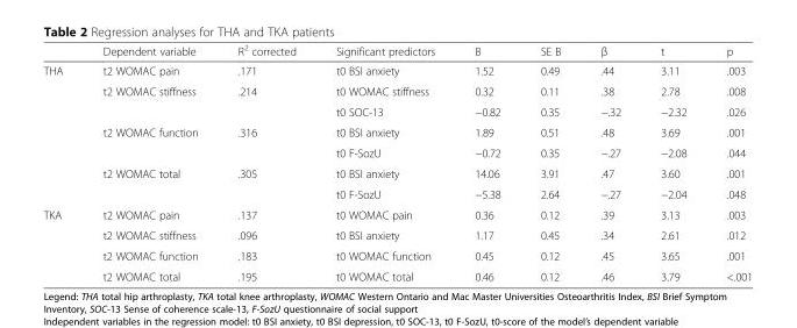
<table><thead><tr><td></td><td>Dependent variable</td><td>R<sup>2</sup> corrected</td><td>Significant predictors</td><td>B</td><td>SE B</td><td>β</td><td>t</td><td>p</td></tr></thead><tbody><tr><td rowspan="7">THA</td><td>t2 WOMAC pain</td><td>.171</td><td>t0 BSI anxiety</td><td>1.52</td><td>0.49</td><td>.44</td><td>3.11</td><td>.003</td></tr><tr><td rowspan="2">t2 WOMAC stiffness</td><td rowspan="2">.214</td><td>t0 WOMAC stiffness</td><td>0.32</td><td>0.11</td><td>.38</td><td>2.78</td><td>.008</td></tr><tr><td>t0 SOC-13</td><td>−0.82</td><td>0.35</td><td>−.32</td><td>−2.32</td><td>.026</td></tr><tr><td rowspan="2">t2 WOMAC function</td><td rowspan="2">.316</td><td>t0 BSI anxiety</td><td>1.89</td><td>0.51</td><td>.48</td><td>3.69</td><td>.001</td></tr><tr><td>t0 F-SozU</td><td>−0.72</td><td>0.35</td><td>−.27</td><td>−2.08</td><td>.044</td></tr><tr><td rowspan="2">t2 WOMAC total</td><td rowspan="2">.305</td><td>t0 BSI anxiety</td><td>14.06</td><td>3.91</td><td>.47</td><td>3.60</td><td>.001</td></tr><tr><td>t0 F-SozU</td><td>−5.38</td><td>2.64</td><td>−.27</td><td>−2.04</td><td>.048</td></tr><tr><td rowspan="4">TKA</td><td>t2 WOMAC pain</td><td>.137</td><td>t0 WOMAC pain</td><td>0.36</td><td>0.12</td><td>.39</td><td>3.13</td><td>.003</td></tr><tr><td>t2 WOMAC stiffness</td><td>.096</td><td>t0 BSI anxiety</td><td>1.17</td><td>0.45</td><td>.34</td><td>2.61</td><td>.012</td></tr><tr><td>t2 WOMAC function</td><td>.183</td><td>t0 WOMAC function</td><td>0.45</td><td>0.12</td><td>.45</td><td>3.65</td><td>.001</td></tr><tr><td>t2 WOMAC total</td><td>.195</td><td>t0 WOMAC total</td><td>0.46</td><td>0.12</td><td>.46</td><td>3.79</td><td>&lt;.001</td></tr></tbody></table>